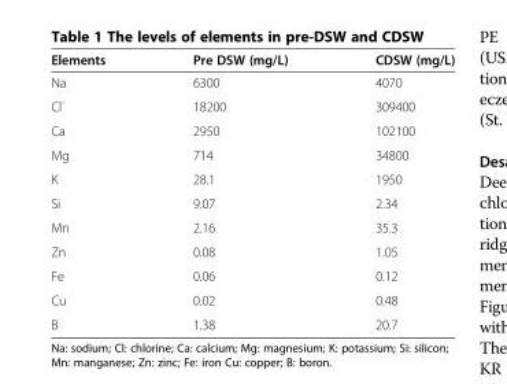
<table><thead><tr><td>Elements</td><td>Pre DSW (mg/L)</td><td>CDSW (mg/L)</td></tr></thead><tbody><tr><td>Na</td><td>6300</td><td>4070</td></tr><tr><td>Cl<sup>-</sup></td><td>18200</td><td>309400</td></tr><tr><td>Ca</td><td>2950</td><td>102100</td></tr><tr><td>Mg</td><td>714</td><td>34800</td></tr><tr><td>K</td><td>28.1</td><td>1950</td></tr><tr><td>Si</td><td>9.07</td><td>2.34</td></tr><tr><td>Mn</td><td>2.16</td><td>35.3</td></tr><tr><td>Zn</td><td>0.08</td><td>1.05</td></tr><tr><td>Fe</td><td>0.06</td><td>0.12</td></tr><tr><td>Cu</td><td>0.02</td><td>0.48</td></tr><tr><td>B</td><td>1.38</td><td>20.7</td></tr></tbody></table>